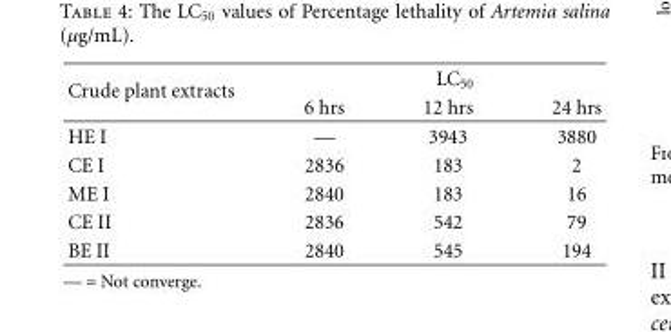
<table><thead><tr><td rowspan="2">Crude plant extracts</td><td colspan="3">LC<sub>50</sub></td></tr><tr><td>6 hrs</td><td>12 hrs</td><td>24 hrs</td></tr></thead><tbody><tr><td>HE I</td><td>—</td><td>3943</td><td>3880</td></tr><tr><td>CE I</td><td>2836</td><td>183</td><td>2</td></tr><tr><td>ME I</td><td>2840</td><td>183</td><td>16</td></tr><tr><td>CE II</td><td>2836</td><td>542</td><td>79</td></tr><tr><td>BE II</td><td>2840</td><td>545</td><td>194</td></tr></tbody></table>